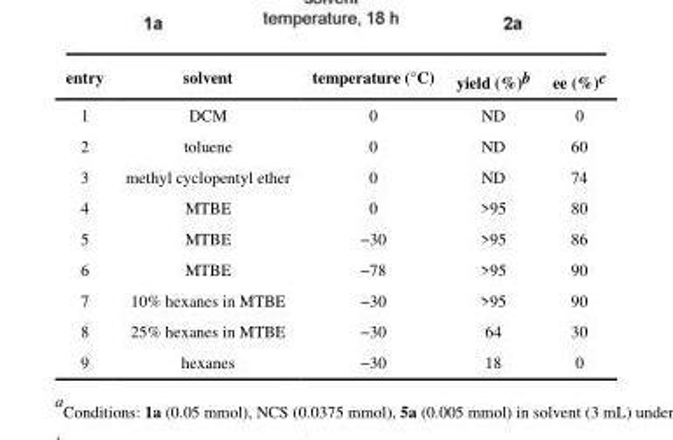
<table><thead><tr><td>entry</td><td>solvent</td><td>temperature (°C)</td><td>yield (%)<sup>b</sup></td><td>ee (%)<sup>c</sup></td></tr></thead><tbody><tr><td>1</td><td>DCM</td><td>0</td><td>ND</td><td>0</td></tr><tr><td>2</td><td>toluene</td><td>0</td><td>ND</td><td>60</td></tr><tr><td>3</td><td>methyl cyclopentyl ether</td><td>0</td><td>ND</td><td>74</td></tr><tr><td>4</td><td>MTBE</td><td>0</td><td>&gt;95</td><td>80</td></tr><tr><td>5</td><td>MTBE</td><td>−30</td><td>&gt;95</td><td>86</td></tr><tr><td>6</td><td>MTBE</td><td>−78</td><td>&gt;95</td><td>90</td></tr><tr><td>7</td><td>10% hexanes in MTBE</td><td>−30</td><td>&gt;95</td><td>90</td></tr><tr><td>8</td><td>25% hexanes in MTBE</td><td>−30</td><td>64</td><td>30</td></tr><tr><td>9</td><td>hexanes</td><td>−30</td><td>18</td><td>0</td></tr></tbody></table>